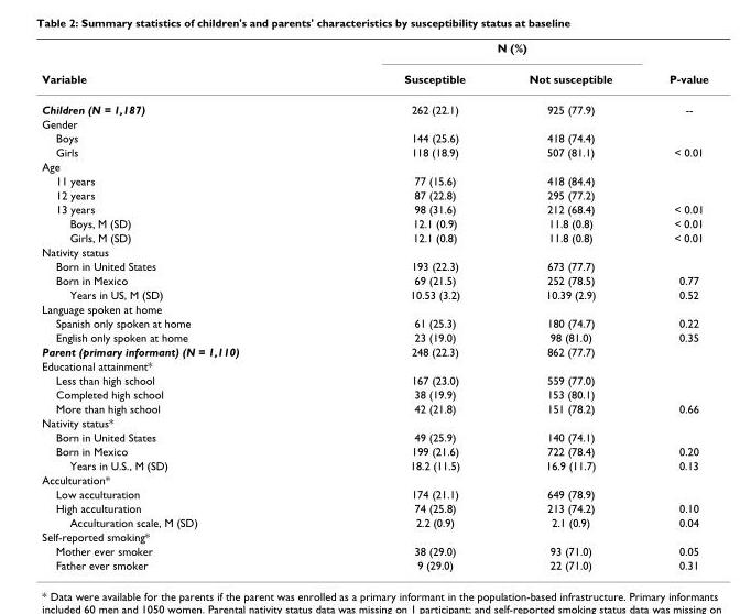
<table><thead><tr><td rowspan="2">Variable</td><td colspan="2">N (%)</td><td rowspan="2">P-value</td></tr><tr><td>Susceptible</td><td>Not susceptible</td></tr></thead><tbody><tr><td>Children (N = 1,187)</td><td>262 (22.1)</td><td>925 (77.9)</td><td>--</td></tr><tr><td colspan="4">Gender</td></tr><tr><td>Boys</td><td>144 (25.6)</td><td>418 (74.4)</td><td></td></tr><tr><td>Girls</td><td>118 (18.9)</td><td>507 (81.1)</td><td>&lt; 0.01</td></tr><tr><td colspan="4">Age</td></tr><tr><td>11 years</td><td>77 (15.6)</td><td>418 (84.4)</td><td></td></tr><tr><td>12 years</td><td>87 (22.8)</td><td>295 (77.2)</td><td></td></tr><tr><td>13 years</td><td>98 (31.6)</td><td>212 (68.4)</td><td>&lt; 0.01</td></tr><tr><td>Boys, M (SD)</td><td>12.1 (0.9)</td><td>11.8 (0.8)</td><td>&lt; 0.01</td></tr><tr><td>Girls, M (SD)</td><td>12.1 (0.8)</td><td>11.8 (0.8)</td><td>&lt; 0.01</td></tr><tr><td colspan="4">Nativity status</td></tr><tr><td>Born in United States</td><td>193 (22.3)</td><td>673 (77.7)</td><td></td></tr><tr><td>Born in Mexico</td><td>69 (21.5)</td><td>252 (78.5)</td><td>0.77</td></tr><tr><td>Years in US, M (SD)</td><td>10.53 (3.2)</td><td>10.39 (2.9)</td><td>0.52</td></tr><tr><td colspan="4">Language spoken at home</td></tr><tr><td>Spanish only spoken at home</td><td>61 (25.3)</td><td>180 (74.7)</td><td>0.22</td></tr><tr><td>English only spoken at home</td><td>23 (19.0)</td><td>98 (81.0)</td><td>0.35</td></tr><tr><td>Parent (primary informant) (N = 1,110)</td><td>248 (22.3)</td><td>862 (77.7)</td><td></td></tr><tr><td colspan="4">Educational attainment*</td></tr><tr><td>Less than high school</td><td>167 (23.0)</td><td>559 (77.0)</td><td></td></tr><tr><td>Completed high school</td><td>38 (19.9)</td><td>153 (80.1)</td><td></td></tr><tr><td>More than high school</td><td>42 (21.8)</td><td>151 (78.2)</td><td>0.66</td></tr><tr><td colspan="4">Nativity status*</td></tr><tr><td>Born in United States</td><td>49 (25.9)</td><td>140 (74.1)</td><td></td></tr><tr><td>Born in Mexico</td><td>199 (21.6)</td><td>722 (78.4)</td><td>0.20</td></tr><tr><td>Years in U.S., M (SD)</td><td>18.2 (11.5)</td><td>16.9 (11.7)</td><td>0.13</td></tr><tr><td colspan="4">Acculturation*</td></tr><tr><td>Low acculturation</td><td>174 (21.1)</td><td>649 (78.9)</td><td></td></tr><tr><td>High acculturation</td><td>74 (25.8)</td><td>213 (74.2)</td><td>0.10</td></tr><tr><td>Acculturation scale, M (SD)</td><td>2.2 (0.9)</td><td>2.1 (0.9)</td><td>0.04</td></tr><tr><td colspan="4">Self-reported smoking*</td></tr><tr><td>Mother ever smoker</td><td>38 (29.0)</td><td>93 (71.0)</td><td>0.05</td></tr><tr><td>Father ever smoker</td><td>9 (29.0)</td><td>22 (71.0)</td><td>0.31</td></tr></tbody></table>